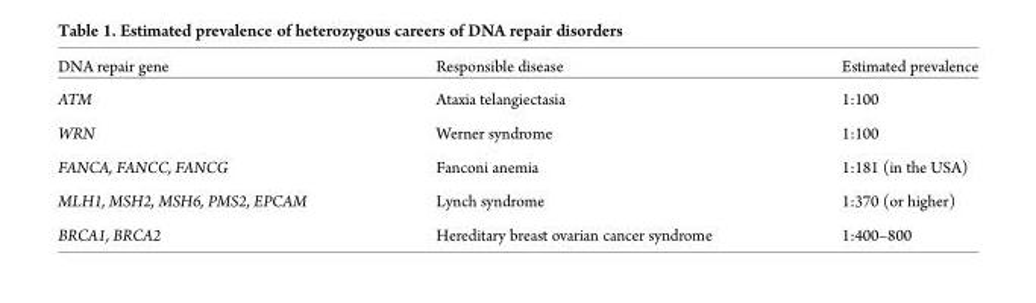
<table><thead><tr><td>DNA repair gene</td><td>Responsible disease</td><td>Estimated prevalence</td></tr></thead><tbody><tr><td>ATM</td><td>Ataxia telangiectasia</td><td>1:100</td></tr><tr><td>WRN</td><td>Werner syndrome</td><td>1:100</td></tr><tr><td>FANCA, FANCC, FANCG</td><td>Fanconi anemia</td><td>1:181 (in the USA)</td></tr><tr><td>MLH1, MSH2, MSH6, PMS2, EPCAM</td><td>Lynch syndrome</td><td>1:370 (or higher)</td></tr><tr><td>BRCA1, BRCA2</td><td>Hereditary breast ovarian cancer syndrome</td><td>1:400–800</td></tr></tbody></table>